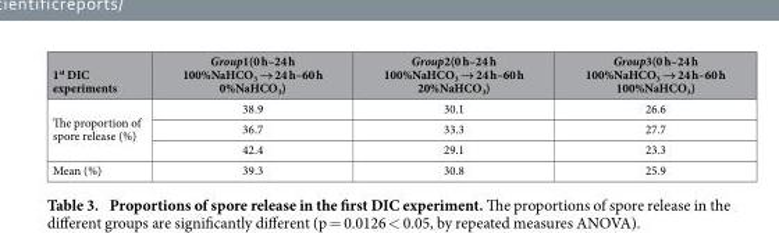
<table><thead><tr><td>1<sup>st</sup> DIC experiments</td><td>Group1(0 h–24 h 100%NaHCO<sub>3</sub> → 24 h–60 h 0%NaHCO<sub>3</sub>)</td><td>Group2(0 h–24 h 100%NaHCO<sub>3</sub> → 24 h–60 h 20%NaHCO<sub>3</sub>)</td><td>Group3(0 h–24 h 100%NaHCO<sub>3</sub> → 24 h–60 h 100%NaHCO<sub>3</sub>)</td></tr></thead><tbody><tr><td rowspan="3">The proportion of spore release (%)</td><td>38.9</td><td>30.1</td><td>26.6</td></tr><tr><td>36.7</td><td>33.3</td><td>27.7</td></tr><tr><td>42.4</td><td>29.1</td><td>23.3</td></tr><tr><td>Mean (%)</td><td>39.3</td><td>30.8</td><td>25.9</td></tr></tbody></table>